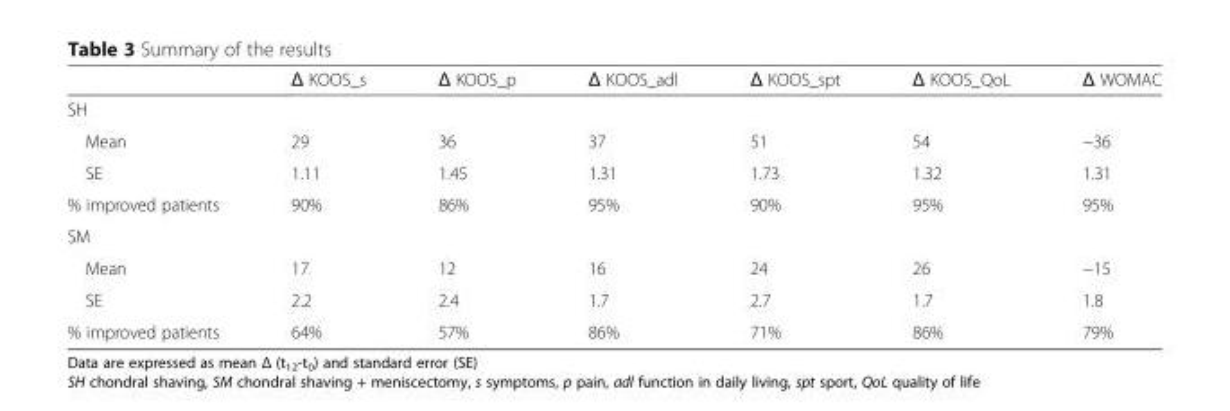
<table><thead><tr><td></td><td>Δ KOOS_s</td><td>Δ KOOS_p</td><td>Δ KOOS_adl</td><td>Δ KOOS_spt</td><td>Δ KOOS_QoL</td><td>Δ WOMAC</td></tr></thead><tbody><tr><td colspan="7">SH</td></tr><tr><td>Mean</td><td>29</td><td>36</td><td>37</td><td>51</td><td>54</td><td>−36</td></tr><tr><td>SE</td><td>1.11</td><td>1.45</td><td>1.31</td><td>1.73</td><td>1.32</td><td>1.31</td></tr><tr><td>% improved patients</td><td>90%</td><td>86%</td><td>95%</td><td>90%</td><td>95%</td><td>95%</td></tr><tr><td colspan="7">SM</td></tr><tr><td>Mean</td><td>17</td><td>12</td><td>16</td><td>24</td><td>26</td><td>−15</td></tr><tr><td>SE</td><td>2.2</td><td>2.4</td><td>1.7</td><td>2.7</td><td>1.7</td><td>1.8</td></tr><tr><td>% improved patients</td><td>64%</td><td>57%</td><td>86%</td><td>71%</td><td>86%</td><td>79%</td></tr></tbody></table>